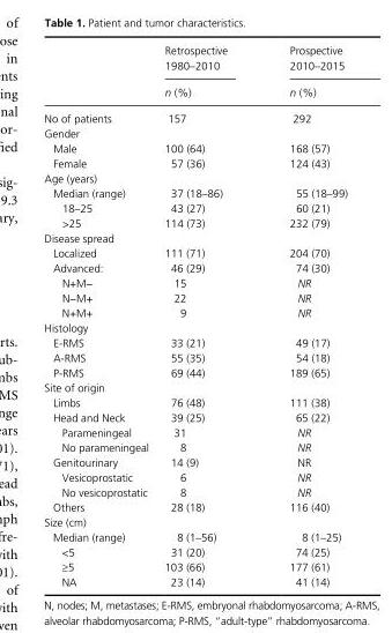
<table><thead><tr><td rowspan="2"></td><td rowspan="2">Retrospective 1980–2010 n (%)</td><td rowspan="2">Prospective 2010–2015 n (%)</td></tr><tr></tr></thead><tbody><tr><td>No of patients</td><td>157</td><td>292</td></tr><tr><td colspan="3">Gender</td></tr><tr><td>Male</td><td>100 (64)</td><td>168 (57)</td></tr><tr><td>Female</td><td>57 (36)</td><td>124 (43)</td></tr><tr><td colspan="3">Age (years)</td></tr><tr><td>Median (range)</td><td>37 (18–86)</td><td>55 (18–99)</td></tr><tr><td>18–25</td><td>43 (27)</td><td>60 (21)</td></tr><tr><td>&gt;25</td><td>114 (73)</td><td>232 (79)</td></tr><tr><td colspan="3">Disease spread</td></tr><tr><td>Localized</td><td>111 (71)</td><td>204 (70)</td></tr><tr><td>Advanced:</td><td>46 (29)</td><td>74 (30)</td></tr><tr><td>N+M−</td><td>15</td><td>NR</td></tr><tr><td>N−M+</td><td>22</td><td>NR</td></tr><tr><td>N+M+</td><td>9</td><td>NR</td></tr><tr><td colspan="3">Histology</td></tr><tr><td>E- RMS</td><td>33 (21)</td><td>49 (17)</td></tr><tr><td>A- RMS</td><td>55 (35)</td><td>54 (18)</td></tr><tr><td>P- RMS</td><td>69 (44)</td><td>189 (65)</td></tr><tr><td colspan="3">Site of origin</td></tr><tr><td>Limbs</td><td>76 (48)</td><td>111 (38)</td></tr><tr><td>Head and Neck</td><td>39 (25)</td><td>65 (22)</td></tr><tr><td>Parameningeal</td><td>31</td><td>NR</td></tr><tr><td>No parameningeal</td><td>8</td><td>NR</td></tr><tr><td>Genitourinary</td><td>14 (9)</td><td>NR</td></tr><tr><td>Vesicoprostatic</td><td>6</td><td>NR</td></tr><tr><td>No vesicoprostatic</td><td>8</td><td>NR</td></tr><tr><td>Others</td><td>28 (18)</td><td>116 (40)</td></tr><tr><td colspan="3">Size (cm)</td></tr><tr><td>Median (range)</td><td>8 (1–56)</td><td>8 (1–25)</td></tr><tr><td>&lt;5</td><td>31 (20)</td><td>74 (25)</td></tr><tr><td>≥5</td><td>103 (66)</td><td>177 (61)</td></tr><tr><td>NA</td><td>23 (14)</td><td>41 (14)</td></tr></tbody></table>